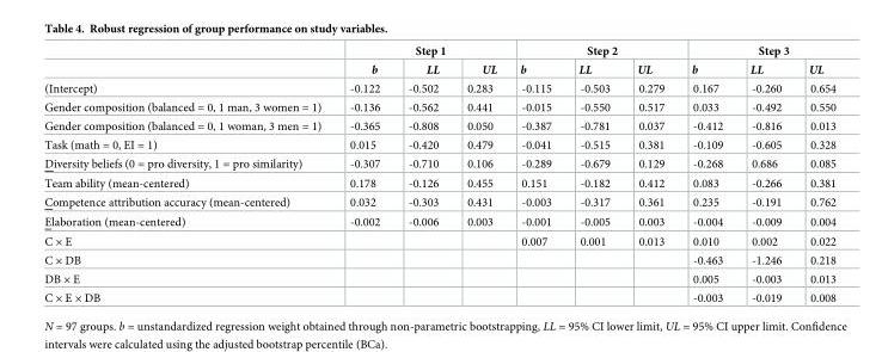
<table><thead><tr><td rowspan="2"></td><td colspan="3">Step 1</td><td colspan="3">Step 2</td><td colspan="3">Step 3</td></tr><tr><td>b</td><td>LL</td><td>UL</td><td>b</td><td>LL</td><td>UL</td><td>b</td><td>LL</td><td>UL</td></tr></thead><tbody><tr><td>(Intercept)</td><td>-0.122</td><td>-0.502</td><td>0.283</td><td>-0.115</td><td>-0.503</td><td>0.279</td><td>0.167</td><td>-0.260</td><td>0.654</td></tr><tr><td>Gender composition (balanced = 0, 1 man, 3 women = 1)</td><td>-0.136</td><td>-0.562</td><td>0.441</td><td>-0.015</td><td>-0.550</td><td>0.517</td><td>0.033</td><td>-0.492</td><td>0.550</td></tr><tr><td>Gender composition (balanced = 0, 1 woman, 3 men = 1)</td><td>-0.365</td><td>-0.808</td><td>0.050</td><td>-0.387</td><td>-0.781</td><td>0.037</td><td>-0.412</td><td>-0.816</td><td>0.013</td></tr><tr><td>Task (math = 0, EI = 1)</td><td>0.015</td><td>-0.420</td><td>0.479</td><td>-0.041</td><td>-0.515</td><td>0.381</td><td>-0.109</td><td>-0.605</td><td>0.328</td></tr><tr><td>Diversity beliefs (0 = pro diversity, 1 = pro similarity)</td><td>-0.307</td><td>-0.710</td><td>0.106</td><td>-0.289</td><td>-0.679</td><td>0.129</td><td>-0.268</td><td>0.686</td><td>0.085</td></tr><tr><td>Team ability (mean-centered)</td><td>0.178</td><td>-0.126</td><td>0.455</td><td>0.151</td><td>-0.182</td><td>0.412</td><td>0.083</td><td>-0.266</td><td>0.381</td></tr><tr><td>Competence attribution accuracy (mean-centered)</td><td>0.032</td><td>-0.303</td><td>0.431</td><td>-0.003</td><td>-0.317</td><td>0.361</td><td>0.235</td><td>-0.191</td><td>0.762</td></tr><tr><td>Elaboration (mean-centered)</td><td>-0.002</td><td>-0.006</td><td>0.003</td><td>-0.001</td><td>-0.005</td><td>0.003</td><td>-0.004</td><td>-0.009</td><td>0.004</td></tr><tr><td>C × E</td><td></td><td></td><td></td><td>0.007</td><td>0.001</td><td>0.013</td><td>0.010</td><td>0.002</td><td>0.022</td></tr><tr><td>C × DB</td><td></td><td></td><td></td><td></td><td></td><td></td><td>-0.463</td><td>-1.246</td><td>0.218</td></tr><tr><td>DB × E</td><td></td><td></td><td></td><td></td><td></td><td></td><td>0.005</td><td>-0.003</td><td>0.013</td></tr><tr><td>C × E × DB</td><td></td><td></td><td></td><td></td><td></td><td></td><td>-0.003</td><td>-0.019</td><td>0.008</td></tr></tbody></table>